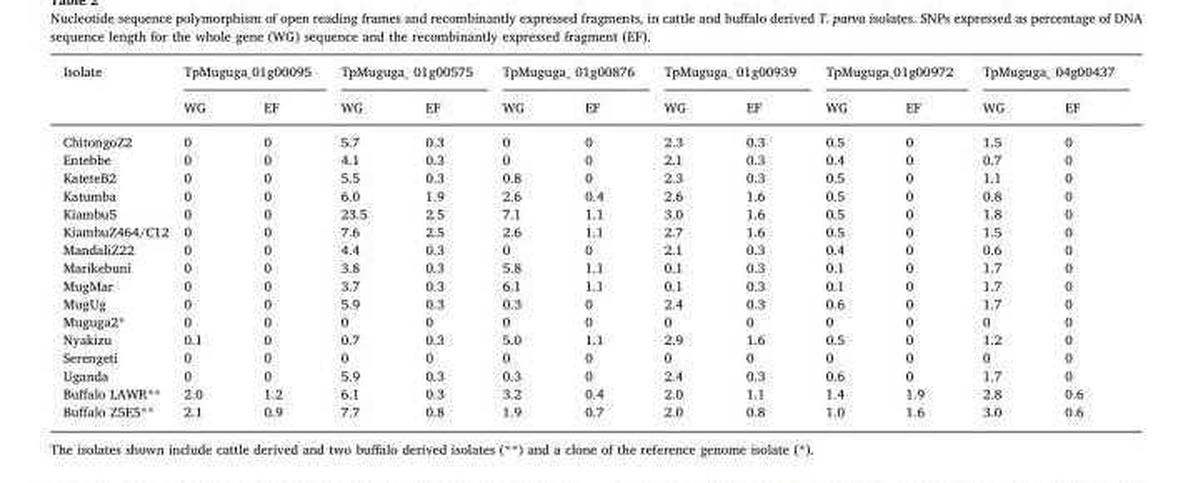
<table><thead><tr><td rowspan="2">Isolate</td><td colspan="2">TpMuguga_01g00095</td><td colspan="2">TpMuguga_ 01g00575</td><td colspan="2">TpMuguga_ 01g00876</td><td colspan="2">TpMuguga_ 01g00939</td><td colspan="2">TpMuguga_01g00972</td><td colspan="2">TpMuguga_ 04g00437</td></tr><tr><td>WG</td><td>EF</td><td>WG</td><td>EF</td><td>WG</td><td>EF</td><td>WG</td><td>EF</td><td>WG</td><td>EF</td><td>WG</td><td>EF</td></tr></thead><tbody><tr><td>ChitongoZ2</td><td>0</td><td>0</td><td>5.7</td><td>0.3</td><td>0</td><td>0</td><td>2.3</td><td>0.3</td><td>0.5</td><td>0</td><td>1.5</td><td>0</td></tr><tr><td>Entebbe</td><td>0</td><td>0</td><td>4.1</td><td>0.3</td><td>0</td><td>0</td><td>2.1</td><td>0.3</td><td>0.4</td><td>0</td><td>0.7</td><td>0</td></tr><tr><td>KateteB2</td><td>0</td><td>0</td><td>5.5</td><td>0.3</td><td>0.8</td><td>0</td><td>2.3</td><td>0.3</td><td>0.5</td><td>0</td><td>1.1</td><td>0</td></tr><tr><td>Katumba</td><td>0</td><td>0</td><td>6.0</td><td>1.9</td><td>2.6</td><td>0.4</td><td>2.6</td><td>1.6</td><td>0.5</td><td>0</td><td>0.8</td><td>0</td></tr><tr><td>Kiambu5</td><td>0</td><td>0</td><td>23.5</td><td>2.5</td><td>7.1</td><td>1.1</td><td>3.0</td><td>1.6</td><td>0.5</td><td>0</td><td>1.8</td><td>0</td></tr><tr><td>KiambuZ464/C12</td><td>0</td><td>0</td><td>7.6</td><td>2.5</td><td>2.6</td><td>1.1</td><td>2.7</td><td>1.6</td><td>0.5</td><td>0</td><td>1.5</td><td>0</td></tr><tr><td>MandaliZ22</td><td>0</td><td>0</td><td>4.4</td><td>0.3</td><td>0</td><td>0</td><td>2.1</td><td>0.3</td><td>0.4</td><td>0</td><td>0.6</td><td>0</td></tr><tr><td>Marikebuni</td><td>0</td><td>0</td><td>3.8</td><td>0.3</td><td>5.8</td><td>1.1</td><td>0.1</td><td>0.3</td><td>0.1</td><td>0</td><td>1.7</td><td>0</td></tr><tr><td>MugMar</td><td>0</td><td>0</td><td>3.7</td><td>0.3</td><td>6.1</td><td>1.1</td><td>0.1</td><td>0.3</td><td>0.1</td><td>0</td><td>1.7</td><td>0</td></tr><tr><td>MugUg</td><td>0</td><td>0</td><td>5.9</td><td>0.3</td><td>0.3</td><td>0</td><td>2.4</td><td>0.3</td><td>0.6</td><td>0</td><td>1.7</td><td>0</td></tr><tr><td>Muguga2*</td><td>0</td><td>0</td><td>0</td><td>0</td><td>0</td><td>0</td><td>0</td><td>0</td><td>0</td><td>0</td><td>0</td><td>0</td></tr><tr><td>Nyakizu</td><td>0.1</td><td>0</td><td>0.7</td><td>0.3</td><td>5.0</td><td>1.1</td><td>2.9</td><td>1.6</td><td>0.5</td><td>0</td><td>1.2</td><td>0</td></tr><tr><td>Serengeti</td><td>0</td><td>0</td><td>0</td><td>0</td><td>0</td><td>0</td><td>0</td><td>0</td><td>0</td><td>0</td><td>0</td><td>0</td></tr><tr><td>Uganda</td><td>0</td><td>0</td><td>5.9</td><td>0.3</td><td>0.3</td><td>0</td><td>2.4</td><td>0.3</td><td>0.6</td><td>0</td><td>1.7</td><td>0</td></tr><tr><td>Buffalo LAWR**</td><td>2.0</td><td>1.2</td><td>6.1</td><td>0.3</td><td>3.2</td><td>0.4</td><td>2.0</td><td>1.1</td><td>1.4</td><td>1.9</td><td>2.8</td><td>0.6</td></tr><tr><td>Buffalo Z5E5**</td><td>2.1</td><td>0.9</td><td>7.7</td><td>0.8</td><td>1.9</td><td>0.7</td><td>2.0</td><td>0.8</td><td>1.0</td><td>1.6</td><td>3.0</td><td>0.6</td></tr></tbody></table>